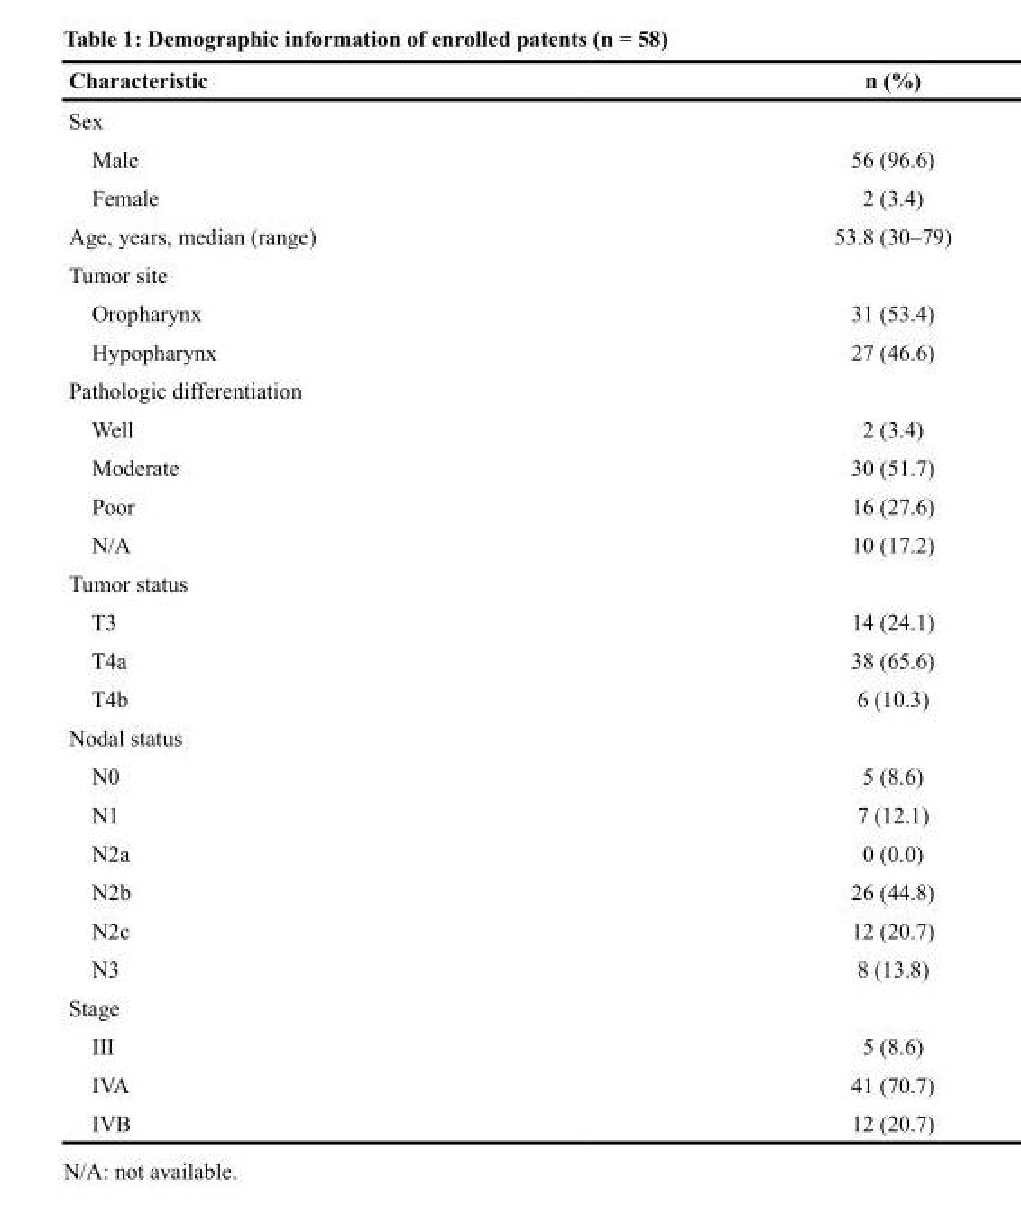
<table><thead><tr><td>Characteristic</td><td>n (%)</td></tr></thead><tbody><tr><td colspan="2">Sex</td></tr><tr><td>Male</td><td>56 (96.6)</td></tr><tr><td>Female</td><td>2 (3.4)</td></tr><tr><td>Age, years, median (range)</td><td>53.8 (30–79)</td></tr><tr><td colspan="2">Tumor site</td></tr><tr><td>Oropharynx</td><td>31 (53.4)</td></tr><tr><td>Hypopharynx</td><td>27 (46.6)</td></tr><tr><td colspan="2">Pathologic differentiation</td></tr><tr><td>Well</td><td>2 (3.4)</td></tr><tr><td>Moderate</td><td>30 (51.7)</td></tr><tr><td>Poor</td><td>16 (27.6)</td></tr><tr><td>N/A</td><td>10 (17.2)</td></tr><tr><td colspan="2">Tumor status</td></tr><tr><td>T3</td><td>14 (24.1)</td></tr><tr><td>T4a</td><td>38 (65.6)</td></tr><tr><td>T4b</td><td>6 (10.3)</td></tr><tr><td colspan="2">Nodal status</td></tr><tr><td>N0</td><td>5 (8.6)</td></tr><tr><td>N1</td><td>7 (12.1)</td></tr><tr><td>N2a</td><td>0 (0.0)</td></tr><tr><td>N2b</td><td>26 (44.8)</td></tr><tr><td>N2c</td><td>12 (20.7)</td></tr><tr><td>N3</td><td>8 (13.8)</td></tr><tr><td colspan="2">Stage</td></tr><tr><td>III</td><td>5 (8.6)</td></tr><tr><td>IVA</td><td>41 (70.7)</td></tr><tr><td>IVB</td><td>12 (20.7)</td></tr></tbody></table>